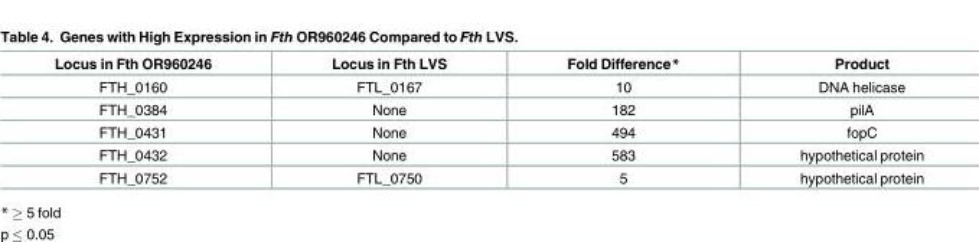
<table><thead><tr><td>Locus in Fth OR960246</td><td>Locus in Fth LVS</td><td>Fold Difference*</td><td>Product</td></tr></thead><tbody><tr><td>FTH_0160</td><td>FTL_0167</td><td>10</td><td>DNA helicase</td></tr><tr><td>FTH_0384</td><td>None</td><td>182</td><td>pilA</td></tr><tr><td>FTH_0431</td><td>None</td><td>494</td><td>fopC</td></tr><tr><td>FTH_0432</td><td>None</td><td>583</td><td>hypothetical protein</td></tr><tr><td>FTH_0752</td><td>FTL_0750</td><td>5</td><td>hypothetical protein</td></tr></tbody></table>